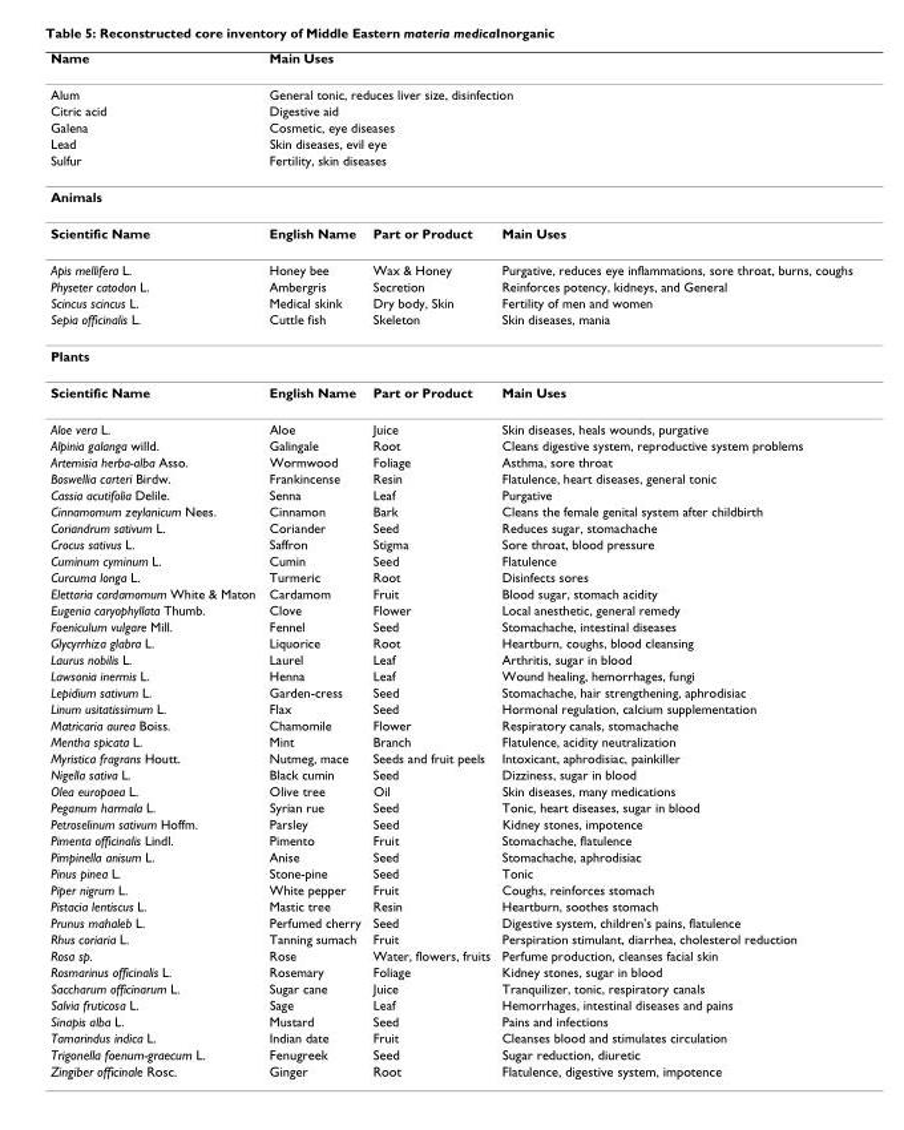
<table><thead><tr><td>Name</td><td colspan="3">Main Uses</td></tr></thead><tbody><tr><td>Alum</td><td colspan="3">General tonic, reduces liver size, disinfection</td></tr><tr><td>Citric acid</td><td colspan="3">Digestive aid</td></tr><tr><td>Galena</td><td colspan="3">Cosmetic, eye diseases</td></tr><tr><td>Lead</td><td colspan="3">Skin diseases, evil eye</td></tr><tr><td>Sulfur</td><td colspan="3">Fertility, skin diseases</td></tr><tr><td colspan="4">Animals</td></tr><tr><td>Scientific Name</td><td>English Name</td><td>Part or Product</td><td>Main Uses</td></tr><tr><td>Apis mellifera L.</td><td>Honey bee</td><td>Wax &amp; Honey</td><td>Purgative, reduces eye inflammations, sore throat, burns, coughs</td></tr><tr><td>Physeter catodon L.</td><td>Ambergris</td><td>Secretion</td><td>Reinforces potency, kidneys, and General</td></tr><tr><td>Scincus scincus L.</td><td>Medical skink</td><td>Dry body, Skin</td><td>Fertility of men and women</td></tr><tr><td>Sepia officinalis L.</td><td>Cuttle fish</td><td>Skeleton</td><td>Skin diseases, mania</td></tr><tr><td colspan="4">Plants</td></tr><tr><td>Scientific Name</td><td>English Name</td><td>Part or Product</td><td>Main Uses</td></tr><tr><td>Aloe vera L.</td><td>Aloe</td><td>Juice</td><td>Skin diseases, heals wounds, purgative</td></tr><tr><td>Alpinia galanga willd.</td><td>Galingale</td><td>Root</td><td>Cleans digestive system, reproductive system problems</td></tr><tr><td>Artemisia herba-alba Asso.</td><td>Wormwood</td><td>Foliage</td><td>Asthma, sore throat</td></tr><tr><td>Boswellia carteri Birdw.</td><td>Frankincense</td><td>Resin</td><td>Flatulence, heart diseases, general tonic</td></tr><tr><td>Cassia acutifolia Delile.</td><td>Senna</td><td>Leaf</td><td>Purgative</td></tr><tr><td>Cinnamomum zeylanicum Nees.</td><td>Cinnamon</td><td>Bark</td><td>Cleans the female genital system after childbirth</td></tr><tr><td>Coriandrum sativum L.</td><td>Coriander</td><td>Seed</td><td>Reduces sugar, stomachache</td></tr><tr><td>Crocus sativus L.</td><td>Saffron</td><td>Stigma</td><td>Sore throat, blood pressure</td></tr><tr><td>Cuminum cyminum L.</td><td>Cumin</td><td>Seed</td><td>Flatulence</td></tr><tr><td>Curcuma longa L.</td><td>Turmeric</td><td>Root</td><td>Disinfects sores</td></tr><tr><td>Elettaria cardamomum White &amp; Maton</td><td>Cardamom</td><td>Fruit</td><td>Blood sugar, stomach acidity</td></tr><tr><td>Eugenia caryophyllata Thumb.</td><td>Clove</td><td>Flower</td><td>Local anesthetic, general remedy</td></tr><tr><td>Foeniculum vulgare Mill.</td><td>Fennel</td><td>Seed</td><td>Stomachache, intestinal diseases</td></tr><tr><td>Glycyrrhiza glabra L.</td><td>Liquorice</td><td>Root</td><td>Heartburn, coughs, blood cleansing</td></tr><tr><td>Laurus nobilis L.</td><td>Laurel</td><td>Leaf</td><td>Arthritis, sugar in blood</td></tr><tr><td>Lawsonia inermis L.</td><td>Henna</td><td>Leaf</td><td>Wound healing, hemorrhages, fungi</td></tr><tr><td>Lepidium sativum L.</td><td>Garden-cress</td><td>Seed</td><td>Stomachache, hair strengthening, aphrodisiac</td></tr><tr><td>Linum usitatissimum L.</td><td>Flax</td><td>Seed</td><td>Hormonal regulation, calcium supplementation</td></tr><tr><td>Matricaria aurea Boiss.</td><td>Chamomile</td><td>Flower</td><td>Respiratory canals, stomachache</td></tr><tr><td>Mentha spicata L.</td><td>Mint</td><td>Branch</td><td>Flatulence, acidity neutralization</td></tr><tr><td>Myristica fragrans Houtt.</td><td>Nutmeg, mace</td><td>Seeds and fruit peels</td><td>Intoxicant, aphrodisiac, painkiller</td></tr><tr><td>Nigella sativa L.</td><td>Black cumin</td><td>Seed</td><td>Dizziness, sugar in blood</td></tr><tr><td>Olea europaea L.</td><td>Olive tree</td><td>Oil</td><td>Skin diseases, many medications</td></tr><tr><td>Peganum harmala L.</td><td>Syrian rue</td><td>Seed</td><td>Tonic, heart diseases, sugar in blood</td></tr><tr><td>Petroselinum sativum Hoffm.</td><td>Parsley</td><td>Seed</td><td>Kidney stones, impotence</td></tr><tr><td>Pimenta officinalis Lindl.</td><td>Pimento</td><td>Fruit</td><td>Stomachache, flatulence</td></tr><tr><td>Pimpinella anisum L.</td><td>Anise</td><td>Seed</td><td>Stomachache, aphrodisiac</td></tr><tr><td>Pinus pinea L.</td><td>Stone-pine</td><td>Seed</td><td>Tonic</td></tr><tr><td>Piper nigrum L.</td><td>White pepper</td><td>Fruit</td><td>Coughs, reinforces stomach</td></tr><tr><td>Pistacia lentiscus L.</td><td>Mastic tree</td><td>Resin</td><td>Heartburn, soothes stomach</td></tr><tr><td>Prunus mahaleb L.</td><td>Perfumed cherry</td><td>Seed</td><td>Digestive system, children&#x27;s pains, flatulence</td></tr><tr><td>Rhus coriaria L.</td><td>Tanning sumach</td><td>Fruit</td><td>Perspiration stimulant, diarrhea, cholesterol reduction</td></tr><tr><td>Rosa sp.</td><td>Rose</td><td>Water, flowers, fruits</td><td>Perfume production, cleanses facial skin</td></tr><tr><td>Rosmarinus officinalis L.</td><td>Rosemary</td><td>Foliage</td><td>Kidney stones, sugar in blood</td></tr><tr><td>Saccharum officinarum L.</td><td>Sugar cane</td><td>Juice</td><td>Tranquilizer, tonic, respiratory canals</td></tr><tr><td>Salvia fruticosa L.</td><td>Sage</td><td>Leaf</td><td>Hemorrhages, intestinal diseases and pains</td></tr><tr><td>Sinapis alba L.</td><td>Mustard</td><td>Seed</td><td>Pains and infections</td></tr><tr><td>Tamarindus indica L.</td><td>Indian date</td><td>Fruit</td><td>Cleanses blood and stimulates circulation</td></tr><tr><td>Trigonella foenum-graecum L.</td><td>Fenugreek</td><td>Seed</td><td>Sugar reduction, diuretic</td></tr><tr><td>Zingiber officinale Rosc.</td><td>Ginger</td><td>Root</td><td>Flatulence, digestive system, impotence</td></tr></tbody></table>